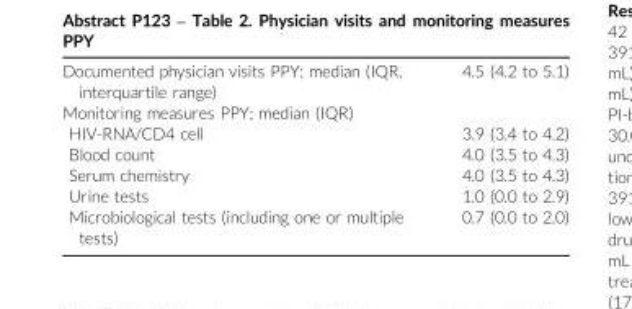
<table><tbody><tr><td>Documented physician visits PPY; median (IQR, interquartile range)</td><td>4.5 (4.2 to 5.1)</td></tr><tr><td colspan="2">Monitoring measures PPY; median (IQR)</td></tr><tr><td>HIV-RNA/CD4 cell</td><td>3.9 (3.4 to 4.2)</td></tr><tr><td>Blood count</td><td>4.0 (3.5 to 4.3)</td></tr><tr><td>Serum chemistry</td><td>4.0 (3.5 to 4.3)</td></tr><tr><td>Urine tests</td><td>1.0 (0.0 to 2.9)</td></tr><tr><td>Microbiological tests (including one or multiple tests)</td><td>0.7 (0.0 to 2.0)</td></tr></tbody></table>